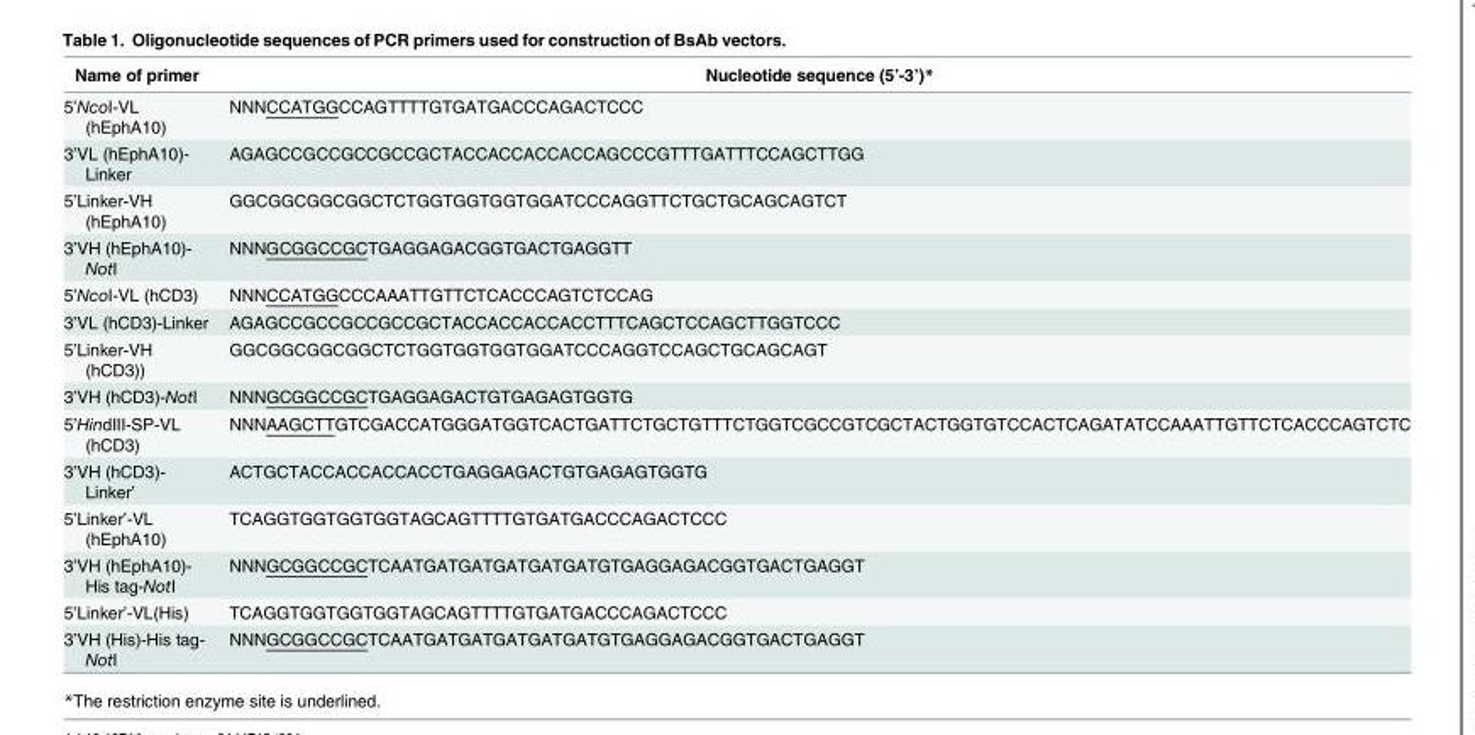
<table><thead><tr><td>Name of primer</td><td>Nucleotide sequence (5’-3’)*</td></tr></thead><tbody><tr><td>5’NcoI-VL (hEphA10)</td><td>NNNCCATGGCCAGTTTTGTGATGACCCAGACTCCC</td></tr><tr><td>3’VL (hEphA10)- Linker</td><td>AGAGCCGCCGCCGCCGCTACCACCACCACCAGCCCGTTTGATTTCCAGCTTGG</td></tr><tr><td>5’Linker-VH (hEphA10)</td><td>GGCGGCGGCGGCTCTGGTGGTGGTGGATCCCAGGTTCTGCTGCAGCAGTCT</td></tr><tr><td>3’VH (hEphA10)- NotI</td><td>NNNGCGGCCGCTGAGGAGACGGTGACTGAGGTT</td></tr><tr><td>5’NcoI-VL (hCD3)</td><td>NNNCCATGGCCCAAATTGTTCTCACCCAGTCTCCAG</td></tr><tr><td>3’VL (hCD3)-Linker</td><td>AGAGCCGCCGCCGCCGCTACCACCACCACCTTTCAGCTCCAGCTTGGTCCC</td></tr><tr><td>5’Linker-VH (hCD3))</td><td>GGCGGCGGCGGCTCTGGTGGTGGTGGATCCCAGGTCCAGCTGCAGCAGT</td></tr><tr><td>3’VH (hCD3)-NotI</td><td>NNNGCGGCCGCTGAGGAGACTGTGAGAGTGGTG</td></tr><tr><td>5’HindIII-SP-VL (hCD3)</td><td>NNNAAGCTTGTCGACCATGGGATGGTCACTGATTCTGCTGTTTCTGGTCGCCGTCGCTACTGGTGTCCACTCAGATATCCAAATTGTTCTCACCCAGTCTC</td></tr><tr><td>3’VH (hCD3)- Linker’</td><td>ACTGCTACCACCACCACCTGAGGAGACTGTGAGAGTGGTG</td></tr><tr><td>5’Linker’-VL (hEphA10)</td><td>TCAGGTGGTGGTGGTAGCAGTTTTGTGATGACCCAGACTCCC</td></tr><tr><td>3’VH (hEphA10)- His tag-NotI</td><td>NNNGCGGCCGCTCAATGATGATGATGATGATGTGAGGAGACGGTGACTGAGGT</td></tr><tr><td>5’Linker’-VL(His)</td><td>TCAGGTGGTGGTGGTAGCAGTTTTGTGATGACCCAGACTCCC</td></tr><tr><td>3’VH (His)-His tag- NotI</td><td>NNNGCGGCCGCTCAATGATGATGATGATGATGTGAGGAGACGGTGACTGAGGT</td></tr></tbody></table>